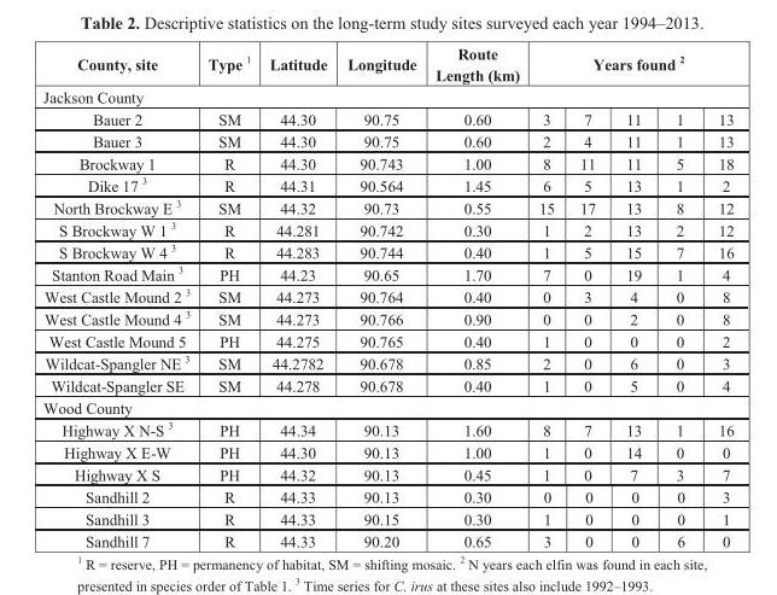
<table><thead><tr><td>County, site</td><td>Type <sup>1</sup></td><td>Latitude</td><td>Longitude</td><td>Route Length (km)</td><td colspan="5">Years found <sup>2</sup></td></tr><tr><td colspan="10">Jackson County</td></tr><tr><td>Bauer 2</td><td>SM</td><td>44.30</td><td>90.75</td><td>0.60</td><td>3</td><td>7</td><td>11</td><td>1</td><td>13</td></tr></thead><tbody><tr><td>Bauer 3</td><td>SM</td><td>44.30</td><td>90.75</td><td>0.60</td><td>2</td><td>4</td><td>11</td><td>1</td><td>13</td></tr><tr><td>Brockway 1</td><td>R</td><td>44.30</td><td>90.743</td><td>1.00</td><td>8</td><td>11</td><td>11</td><td>5</td><td>18</td></tr><tr><td>Dike 17 <sup>3</sup></td><td>R</td><td>44.31</td><td>90.564</td><td>1.45</td><td>6</td><td>5</td><td>13</td><td>1</td><td>2</td></tr><tr><td>North Brockway E <sup>3</sup></td><td>SM</td><td>44.32</td><td>90.73</td><td>0.55</td><td>15</td><td>17</td><td>13</td><td>8</td><td>12</td></tr><tr><td>S Brockway W 1 <sup>3</sup></td><td>R</td><td>44.281</td><td>90.742</td><td>0.30</td><td>1</td><td>2</td><td>13</td><td>2</td><td>12</td></tr><tr><td>S Brockway W 4 <sup>3</sup></td><td>R</td><td>44.283</td><td>90.744</td><td>0.40</td><td>1</td><td>5</td><td>15</td><td>7</td><td>16</td></tr><tr><td>Stanton Road Main <sup>3</sup></td><td>PH</td><td>44.23</td><td>90.65</td><td>1.70</td><td>7</td><td>0</td><td>19</td><td>1</td><td>4</td></tr><tr><td>West Castle Mound 2 <sup>3</sup></td><td>SM</td><td>44.273</td><td>90.764</td><td>0.40</td><td>0</td><td>3</td><td>4</td><td>0</td><td>8</td></tr><tr><td>West Castle Mound 4 <sup>3</sup></td><td>SM</td><td>44.273</td><td>90.766</td><td>0.90</td><td>0</td><td>0</td><td>2</td><td>0</td><td>8</td></tr><tr><td>West Castle Mound 5</td><td>PH</td><td>44.275</td><td>90.765</td><td>0.40</td><td>1</td><td>0</td><td>0</td><td>0</td><td>2</td></tr><tr><td>Wildcat-Spangler NE <sup>3</sup></td><td>SM</td><td>44.2782</td><td>90.678</td><td>0.85</td><td>2</td><td>0</td><td>6</td><td>0</td><td>3</td></tr><tr><td>Wildcat-Spangler SE</td><td>SM</td><td>44.278</td><td>90.678</td><td>0.40</td><td>1</td><td>0</td><td>5</td><td>0</td><td>4</td></tr><tr><td colspan="10">Wood County</td></tr><tr><td>Highway X N-S <sup>3</sup></td><td>PH</td><td>44.34</td><td>90.13</td><td>1.60</td><td>8</td><td>7</td><td>13</td><td>1</td><td>16</td></tr><tr><td>Highway X E-W</td><td>PH</td><td>44.30</td><td>90.13</td><td>1.00</td><td>1</td><td>0</td><td>14</td><td>0</td><td>0</td></tr><tr><td>Highway X S</td><td>PH</td><td>44.32</td><td>90.13</td><td>0.45</td><td>1</td><td>0</td><td>7</td><td>3</td><td>7</td></tr><tr><td>Sandhill 2</td><td>R</td><td>44.33</td><td>90.13</td><td>0.30</td><td>0</td><td>0</td><td>0</td><td>0</td><td>3</td></tr><tr><td>Sandhill 3</td><td>R</td><td>44.33</td><td>90.15</td><td>0.30</td><td>1</td><td>0</td><td>0</td><td>0</td><td>1</td></tr><tr><td>Sandhill 7</td><td>R</td><td>44.33</td><td>90.20</td><td>0.65</td><td>3</td><td>0</td><td>0</td><td>6</td><td>0</td></tr></tbody></table>